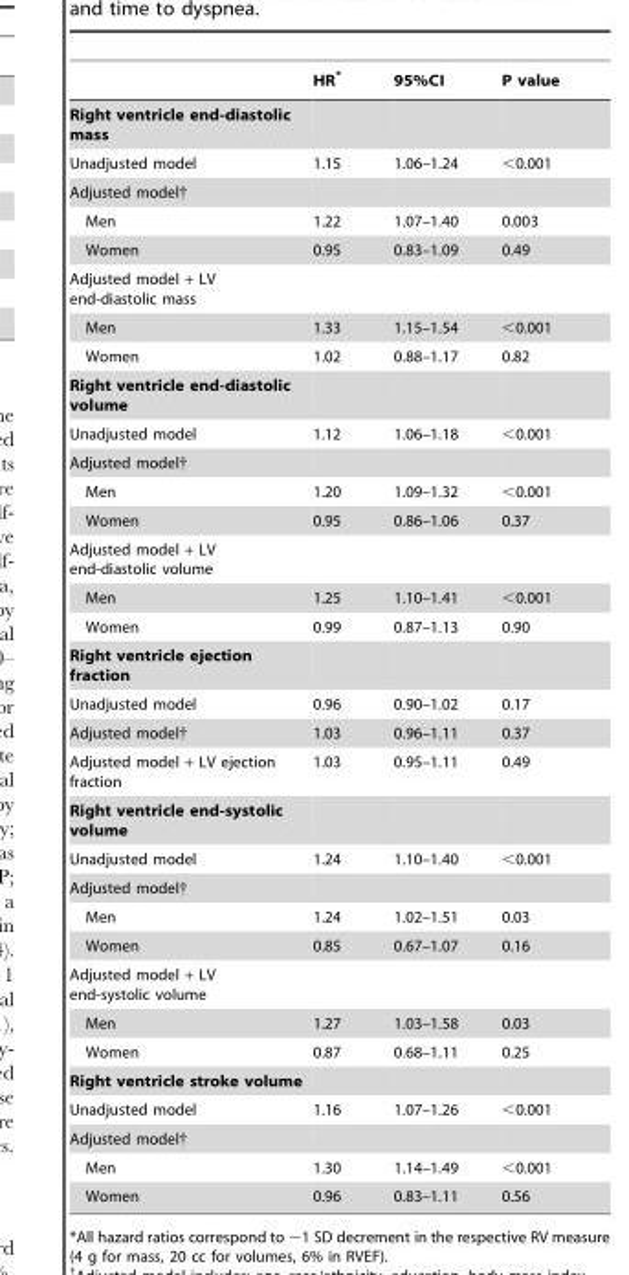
<table><thead><tr><td></td><td>HR*</td><td>95%CI</td><td>P value</td></tr></thead><tbody><tr><td colspan="4">Right ventricle end-diastolic mass</td></tr><tr><td>Unadjusted model</td><td>1.15</td><td>1.06–1.24</td><td>&lt;0.001</td></tr><tr><td colspan="4">Adjusted model†</td></tr><tr><td>Men</td><td>1.22</td><td>1.07–1.40</td><td>0.003</td></tr><tr><td>Women</td><td>0.95</td><td>0.83–1.09</td><td>0.49</td></tr><tr><td colspan="4">Adjusted model + LV end-diastolic mass</td></tr><tr><td>Men</td><td>1.33</td><td>1.15–1.54</td><td>&lt;0.001</td></tr><tr><td>Women</td><td>1.02</td><td>0.88–1.17</td><td>0.82</td></tr><tr><td colspan="4">Right ventricle end-diastolic volume</td></tr><tr><td>Unadjusted model</td><td>1.12</td><td>1.06–1.18</td><td>&lt;0.001</td></tr><tr><td colspan="4">Adjusted model†</td></tr><tr><td>Men</td><td>1.20</td><td>1.09–1.32</td><td>&lt;0.001</td></tr><tr><td>Women</td><td>0.95</td><td>0.86–1.06</td><td>0.37</td></tr><tr><td colspan="4">Adjusted model + LV end-diastolic volume</td></tr><tr><td>Men</td><td>1.25</td><td>1.10–1.41</td><td>&lt;0.001</td></tr><tr><td>Women</td><td>0.99</td><td>0.87–1.13</td><td>0.90</td></tr><tr><td colspan="4">Right ventricle ejection fraction</td></tr><tr><td>Unadjusted model</td><td>0.96</td><td>0.90–1.02</td><td>0.17</td></tr><tr><td>Adjusted model†</td><td>1.03</td><td>0.96–1.11</td><td>0.37</td></tr><tr><td>Adjusted model + LV ejection fraction</td><td>1.03</td><td>0.95–1.11</td><td>0.49</td></tr><tr><td colspan="4">Right ventricle end-systolic volume</td></tr><tr><td>Unadjusted model</td><td>1.24</td><td>1.10–1.40</td><td>&lt;0.001</td></tr><tr><td colspan="4">Adjusted model†</td></tr><tr><td>Men</td><td>1.24</td><td>1.02–1.51</td><td>0.03</td></tr><tr><td>Women</td><td>0.85</td><td>0.67–1.07</td><td>0.16</td></tr><tr><td colspan="4">Adjusted model + LV end-systolic volume</td></tr><tr><td>Men</td><td>1.27</td><td>1.03–1.58</td><td>0.03</td></tr><tr><td>Women</td><td>0.87</td><td>0.68–1.11</td><td>0.25</td></tr><tr><td colspan="4">Right ventricle stroke volume</td></tr><tr><td>Unadjusted model</td><td>1.16</td><td>1.07–1.26</td><td>&lt;0.001</td></tr><tr><td colspan="4">Adjusted model†</td></tr><tr><td>Men</td><td>1.30</td><td>1.14–1.49</td><td>&lt;0.001</td></tr><tr><td>Women</td><td>0.96</td><td>0.83–1.11</td><td>0.56</td></tr></tbody></table>